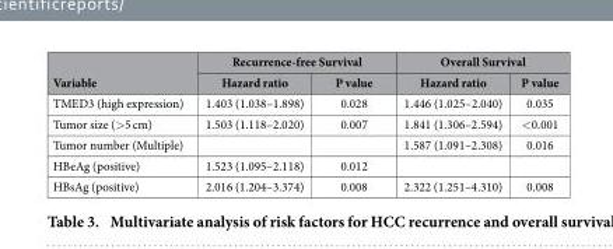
<table><thead><tr><td rowspan="2">Variable</td><td colspan="2">Recurrence-free Survival</td><td colspan="2">Overall Survival</td></tr><tr><td>Hazard ratio</td><td>P value</td><td>Hazard ratio</td><td>P value</td></tr></thead><tbody><tr><td>TMED3 (high expression)</td><td>1.403 (1.038–1.898)</td><td>0.028</td><td>1.446 (1.025–2.040)</td><td>0.035</td></tr><tr><td>Tumor size (&gt; 5 cm)</td><td>1.503 (1.118–2.020)</td><td>0.007</td><td>1.841 (1.306–2.594)</td><td>&lt; 0.001</td></tr><tr><td>Tumor number (Multiple)</td><td></td><td></td><td>1.587 (1.091–2.308)</td><td>0.016</td></tr><tr><td>HBeAg (positive)</td><td>1.523 (1.095–2.118)</td><td>0.012</td><td></td><td></td></tr><tr><td>HBsAg (positive)</td><td>2.016 (1.204–3.374)</td><td>0.008</td><td>2.322 (1.251–4.310)</td><td>0.008</td></tr></tbody></table>